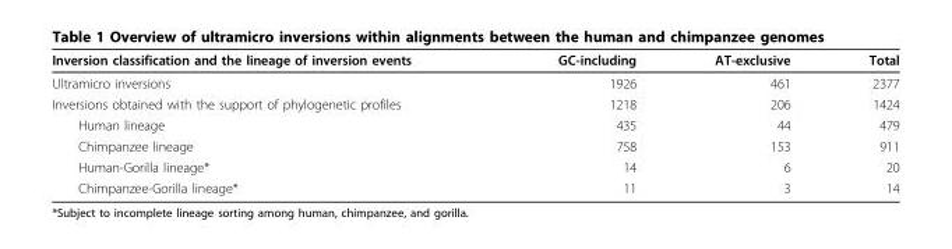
<table><thead><tr><td>Inversion classification and the lineage of inversion events</td><td>GC-including</td><td>AT-exclusive</td><td>Total</td></tr></thead><tbody><tr><td>Ultramicro inversions</td><td>1926</td><td>461</td><td>2377</td></tr><tr><td>Inversions obtained with the support of phylogenetic profiles</td><td>1218</td><td>206</td><td>1424</td></tr><tr><td>Human lineage</td><td>435</td><td>44</td><td>479</td></tr><tr><td>Chimpanzee lineage</td><td>758</td><td>153</td><td>911</td></tr><tr><td>Human-Gorilla lineage*</td><td>14</td><td>6</td><td>20</td></tr><tr><td>Chimpanzee-Gorilla lineage*</td><td>11</td><td>3</td><td>14</td></tr></tbody></table>